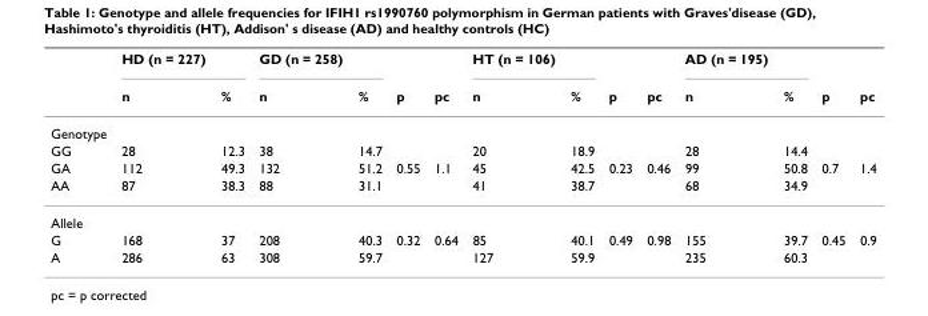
<table><thead><tr><td rowspan="2"></td><td rowspan="2">HD (n = 227) n</td><td rowspan="2">%</td><td rowspan="2">GD (n = 258) n</td><td rowspan="2">%</td><td rowspan="2">p</td><td rowspan="2">pc</td><td rowspan="2">HT (n = 106) n</td><td rowspan="2">%</td><td rowspan="2">p</td><td rowspan="2">pc</td><td rowspan="2">AD (n = 195) n</td><td rowspan="2">%</td><td rowspan="2">p</td><td rowspan="2">pc</td></tr><tr></tr></thead><tbody><tr><td colspan="15">Genotype</td></tr><tr><td>GG</td><td>28</td><td>12.3</td><td>38</td><td>14.7</td><td></td><td></td><td>20</td><td>18.9</td><td></td><td></td><td>28</td><td>14.4</td><td></td><td></td></tr><tr><td>GA</td><td>112</td><td>49.3</td><td>132</td><td>51.2</td><td>0.55</td><td>1.1</td><td>45</td><td>42.5</td><td>0.23</td><td>0.46</td><td>99</td><td>50.8</td><td>0.7</td><td>1.4</td></tr><tr><td>AA</td><td>87</td><td>38.3</td><td>88</td><td>31.1</td><td></td><td></td><td>41</td><td>38.7</td><td></td><td></td><td>68</td><td>34.9</td><td></td><td></td></tr><tr><td colspan="15">Allele</td></tr><tr><td>G</td><td>168</td><td>37</td><td>208</td><td>40.3</td><td>0.32</td><td>0.64</td><td>85</td><td>40.1</td><td>0.49</td><td>0.98</td><td>155</td><td>39.7</td><td>0.45</td><td>0.9</td></tr><tr><td>A</td><td>286</td><td>63</td><td>308</td><td>59.7</td><td></td><td></td><td>127</td><td>59.9</td><td></td><td></td><td>235</td><td>60.3</td><td></td><td></td></tr></tbody></table>